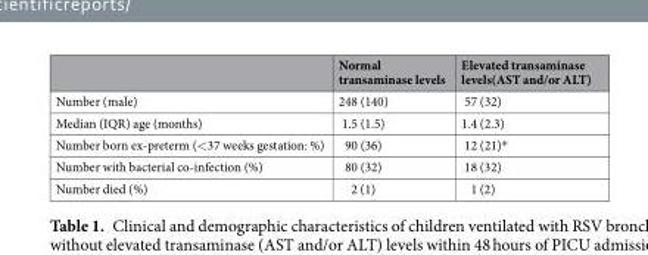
<table><thead><tr><td></td><td>Normal transaminase levels</td><td>Elevated transaminase levels(AST and/or ALT)</td></tr></thead><tbody><tr><td>Number (male)</td><td>248 (140)</td><td>57 (32)</td></tr><tr><td>Median (IQR) age (months)</td><td>1.5 (1.5)</td><td>1.4 (2.3)</td></tr><tr><td>Number born ex-preterm (&lt;37 weeks gestation: %)</td><td>90 (36)</td><td>12 (21)*</td></tr><tr><td>Number with bacterial co-infection (%)</td><td>80 (32)</td><td>18 (32)</td></tr><tr><td>Number died (%)</td><td>2 (1)</td><td>1 (2)</td></tr></tbody></table>